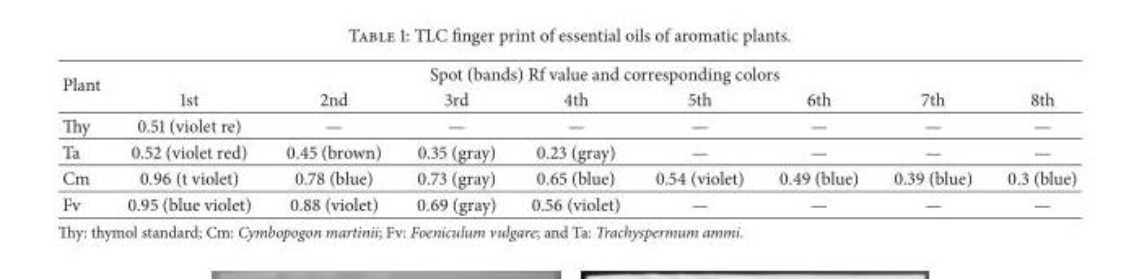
<table><thead><tr><td rowspan="2">Plant</td><td colspan="8">Spot (bands) Rf value and corresponding colors</td></tr><tr><td>1st</td><td>2nd</td><td>3rd</td><td>4th</td><td>5th</td><td>6th</td><td>7th</td><td>8th</td></tr></thead><tbody><tr><td>Thy</td><td>0.51 (violet re)</td><td>—</td><td>—</td><td>—</td><td>—</td><td>—</td><td>—</td><td>—</td></tr><tr><td>Ta</td><td>0.52 (violet red)</td><td>0.45 (brown)</td><td>0.35 (gray)</td><td>0.23 (gray)</td><td>—</td><td>—</td><td>—</td><td>—</td></tr><tr><td>Cm</td><td>0.96 (t violet)</td><td>0.78 (blue)</td><td>0.73 (gray)</td><td>0.65 (blue)</td><td>0.54 (violet)</td><td>0.49 (blue)</td><td>0.39 (blue)</td><td>0.3 (blue)</td></tr><tr><td>Fv</td><td>0.95 (blue violet)</td><td>0.88 (violet)</td><td>0.69 (gray)</td><td>0.56 (violet)</td><td>—</td><td>—</td><td>—</td><td>—</td></tr></tbody></table>